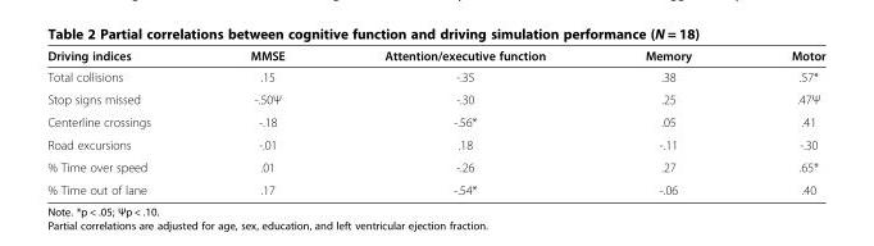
<table><thead><tr><td>Driving indices</td><td>MMSE</td><td>Attention/executive function</td><td>Memory</td><td>Motor</td></tr></thead><tbody><tr><td>Total collisions</td><td>.15</td><td>-.35</td><td>.38</td><td>.57*</td></tr><tr><td>Stop signs missed</td><td>-.50Ψ</td><td>-.30</td><td>.25</td><td>.47Ψ</td></tr><tr><td>Centerline crossings</td><td>-.18</td><td>-.56*</td><td>.05</td><td>.41</td></tr><tr><td>Road excursions</td><td>-.01</td><td>.18</td><td>-.11</td><td>-.30</td></tr><tr><td>% Time over speed</td><td>.01</td><td>-.26</td><td>.27</td><td>.65*</td></tr><tr><td>% Time out of lane</td><td>.17</td><td>-.54*</td><td>-.06</td><td>.40</td></tr></tbody></table>